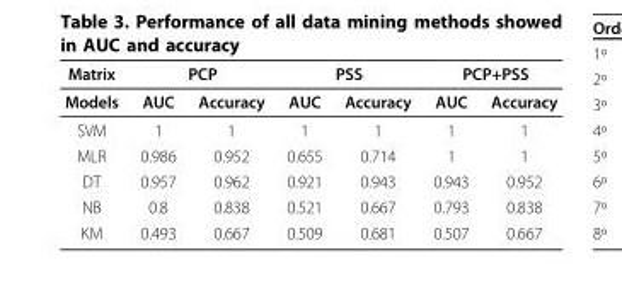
<table><thead><tr><td rowspan="2">Matrix Models</td><td colspan="2">PCP</td><td colspan="2">PSS</td><td colspan="2">PCP+PSS</td></tr><tr><td>AUC</td><td>Accuracy</td><td>AUC</td><td>Accuracy</td><td>AUC</td><td>Accuracy</td></tr></thead><tbody><tr><td>SVM</td><td>1</td><td>1</td><td>1</td><td>1</td><td>1</td><td>1</td></tr><tr><td>MLR</td><td>0.986</td><td>0.952</td><td>0.655</td><td>0.714</td><td>1</td><td>1</td></tr><tr><td>DT</td><td>0.957</td><td>0.962</td><td>0.921</td><td>0.943</td><td>0.943</td><td>0.952</td></tr><tr><td>NB</td><td>0.8</td><td>0.838</td><td>0.521</td><td>0.667</td><td>0.793</td><td>0.838</td></tr><tr><td>KM</td><td>0.493</td><td>0.667</td><td>0.509</td><td>0.681</td><td>0.507</td><td>0.667</td></tr></tbody></table>